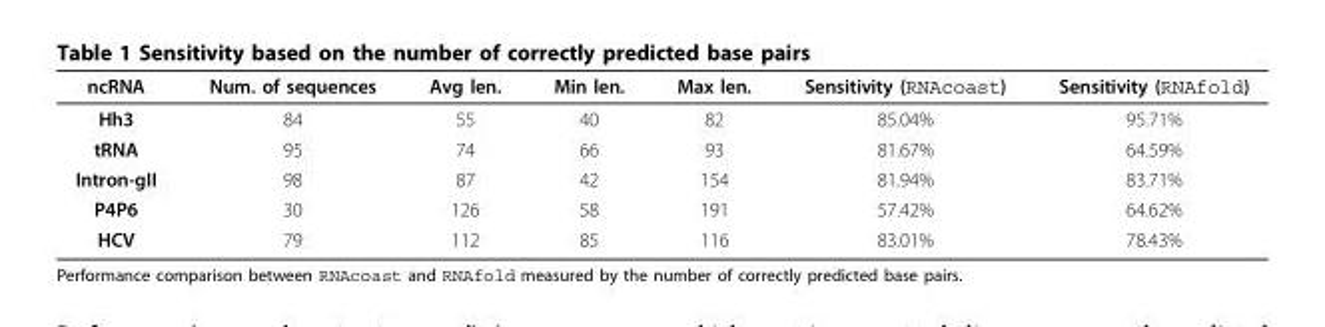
<table><thead><tr><td>ncRNA</td><td>Num. of sequences</td><td>Avg len.</td><td>Min len.</td><td>Max len.</td><td>Sensitivity (RNAcoast)</td><td>Sensitivity (RNAfold)</td></tr></thead><tbody><tr><td>Hh3</td><td>84</td><td>55</td><td>40</td><td>82</td><td>85.04%</td><td>95.71%</td></tr><tr><td>tRNA</td><td>95</td><td>74</td><td>66</td><td>93</td><td>81.67%</td><td>64.59%</td></tr><tr><td>Intron-gII</td><td>98</td><td>87</td><td>42</td><td>154</td><td>81.94%</td><td>83.71%</td></tr><tr><td>P4P6</td><td>30</td><td>126</td><td>58</td><td>191</td><td>57.42%</td><td>64.62%</td></tr><tr><td>HCV</td><td>79</td><td>112</td><td>85</td><td>116</td><td>83.01%</td><td>78.43%</td></tr></tbody></table>